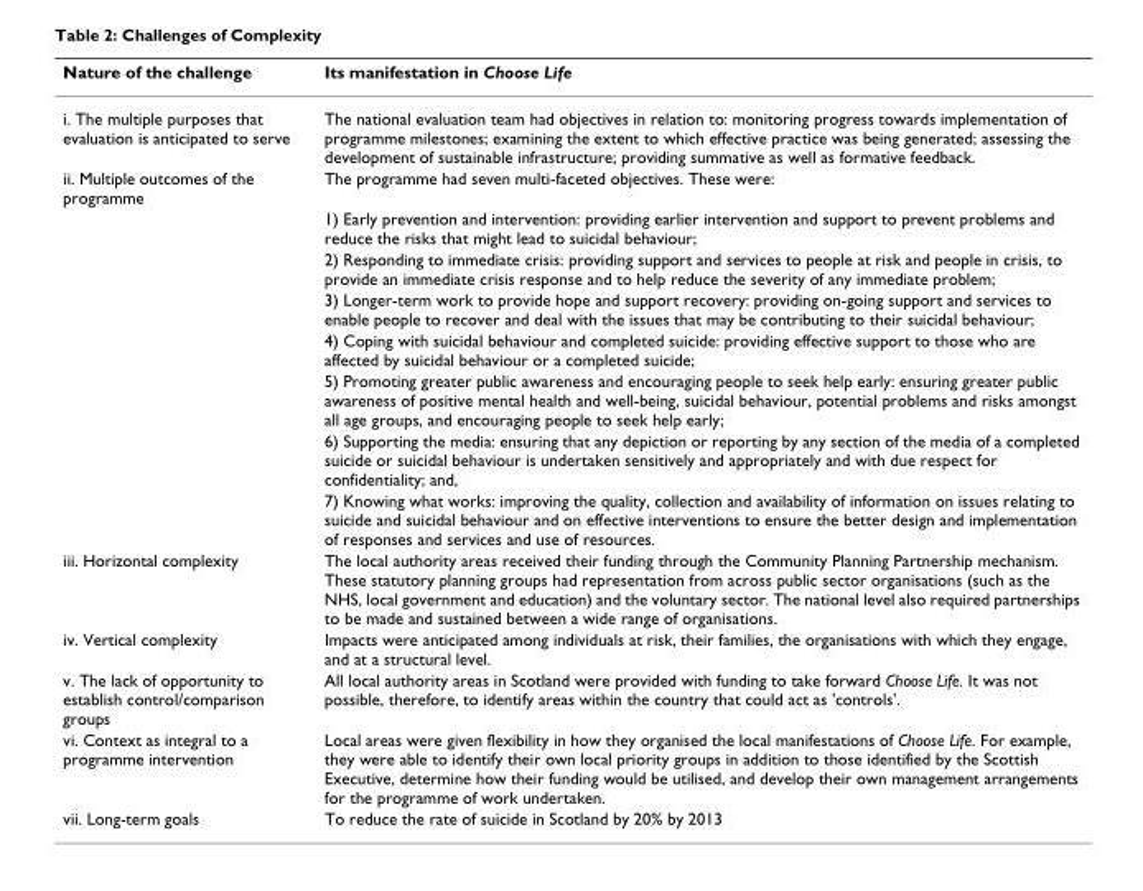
<table><thead><tr><td>Nature of the challenge</td><td>Its manifestation in Choose Life</td></tr></thead><tbody><tr><td>i. The multiple purposes that evaluation is anticipated to serve</td><td>The national evaluation team had objectives in relation to: monitoring progress towards implementation of programme milestones; examining the extent to which effective practice was being generated; assessing the development of sustainable infrastructure; providing summative as well as formative feedback.</td></tr><tr><td rowspan="8">ii. Multiple outcomes of the programme</td><td>The programme had seven multi-faceted objectives. These were:</td></tr><tr><td>1) Early prevention and intervention: providing earlier intervention and support to prevent problems and reduce the risks that might lead to suicidal behaviour;</td></tr><tr><td>2) Responding to immediate crisis: providing support and services to people at risk and people in crisis, to provide an immediate crisis response and to help reduce the severity of any immediate problem;</td></tr><tr><td>3) Longer-term work to provide hope and support recovery: providing on-going support and services to enable people to recover and deal with the issues that may be contributing to their suicidal behaviour;</td></tr><tr><td>4) Coping with suicidal behaviour and completed suicide: providing effective support to those who are affected by suicidal behaviour or a completed suicide;</td></tr><tr><td>5) Promoting greater public awareness and encouraging people to seek help early: ensuring greater public awareness of positive mental health and well-being, suicidal behaviour, potential problems and risks amongst all age groups, and encouraging people to seek help early;</td></tr><tr><td>6) Supporting the media: ensuring that any depiction or reporting by any section of the media of a completed suicide or suicidal behaviour is undertaken sensitively and appropriately and with due respect for confidentiality; and,</td></tr><tr><td>7) Knowing what works: improving the quality, collection and availability of information on issues relating to suicide and suicidal behaviour and on effective interventions to ensure the better design and implementation of responses and services and use of resources.</td></tr><tr><td>iii. Horizontal complexity</td><td>The local authority areas received their funding through the Community Planning Partnership mechanism. These statutory planning groups had representation from across public sector organisations (such as the NHS, local government and education) and the voluntary sector. The national level also required partnerships to be made and sustained between a wide range of organisations.</td></tr><tr><td>iv. Vertical complexity</td><td>Impacts were anticipated among individuals at risk, their families, the organisations with which they engage, and at a structural level.</td></tr><tr><td>v. The lack of opportunity to establish control/comparison groups</td><td>All local authority areas in Scotland were provided with funding to take forward Choose Life. It was not possible, therefore, to identify areas within the country that could act as &#x27;controls&#x27;.</td></tr><tr><td>vi. Context as integral to a programme intervention</td><td>Local areas were given flexibility in how they organised the local manifestations of Choose Life. For example, they were able to identify their own local priority groups in addition to those identified by the Scottish Executive, determine how their funding would be utilised, and develop their own management arrangements for the programme of work undertaken.</td></tr><tr><td>vii. Long-term goals</td><td>To reduce the rate of suicide in Scotland by 20% by 2013</td></tr></tbody></table>